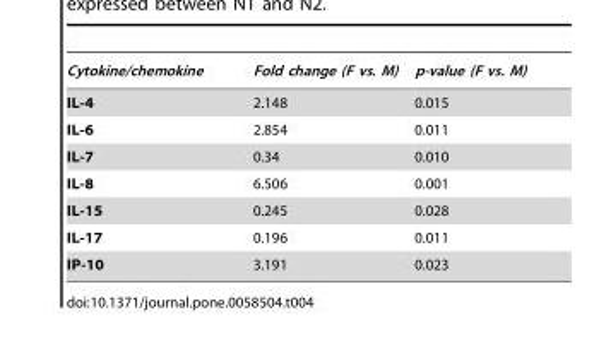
<table><thead><tr><td>Cytokine/chemokine</td><td>Fold change (F vs. M)</td><td>p-value (F vs. M)</td></tr></thead><tbody><tr><td>IL-4</td><td>2.148</td><td>0.015</td></tr><tr><td>IL-6</td><td>2.854</td><td>0.011</td></tr><tr><td>IL-7</td><td>0.34</td><td>0.010</td></tr><tr><td>IL-8</td><td>6.506</td><td>0.001</td></tr><tr><td>IL-15</td><td>0.245</td><td>0.028</td></tr><tr><td>IL-17</td><td>0.196</td><td>0.011</td></tr><tr><td>IP-10</td><td>3.191</td><td>0.023</td></tr></tbody></table>